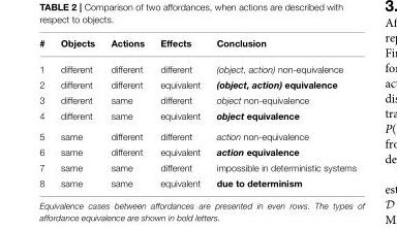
<table><thead><tr><td>#</td><td>Objects</td><td>Actions</td><td>Effects</td><td>Conclusion</td></tr></thead><tbody><tr><td>1</td><td>different</td><td>different</td><td>different</td><td>(object, action) non-equivalence</td></tr><tr><td>2</td><td>different</td><td>different</td><td>equivalent</td><td>(object, action) equivalence</td></tr><tr><td>3</td><td>different</td><td>same</td><td>different</td><td>object non-equivalence</td></tr><tr><td>4</td><td>different</td><td>same</td><td>equivalent</td><td>object equivalence</td></tr><tr><td>5</td><td>same</td><td>different</td><td>different</td><td>action non-equivalence</td></tr><tr><td>6</td><td>same</td><td>different</td><td>equivalent</td><td>action equivalence</td></tr><tr><td>7</td><td>same</td><td>same</td><td>different</td><td>impossible in deterministic systems</td></tr><tr><td>8</td><td>same</td><td>same</td><td>equivalent</td><td>due to determinism</td></tr></tbody></table>